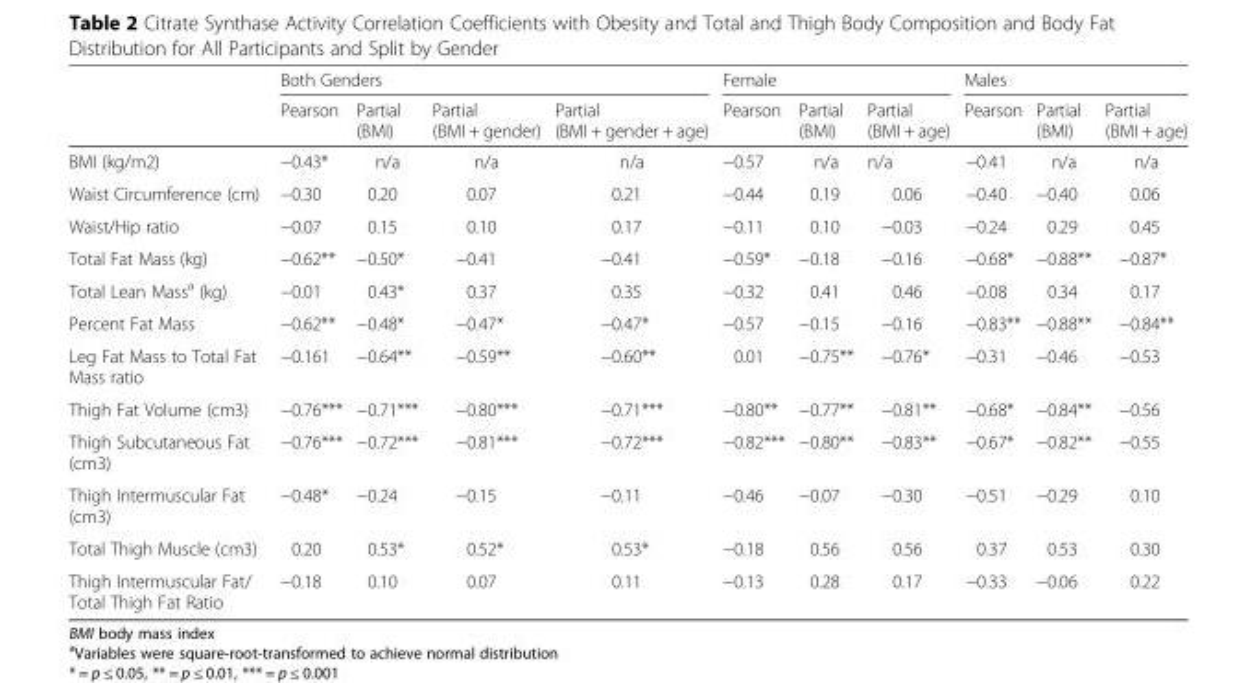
<table><thead><tr><td rowspan="2"></td><td colspan="4">Both Genders</td><td colspan="3">Female</td><td colspan="3">Males</td></tr><tr><td>Pearson</td><td>Partial (BMI)</td><td>Partial (BMI + gender)</td><td>Partial (BMI + gender + age)</td><td>Pearson</td><td>Partial (BMI)</td><td>Partial (BMI + age)</td><td>Pearson</td><td>Partial (BMI)</td><td>Partial (BMI + age)</td></tr></thead><tbody><tr><td>BMI (kg/m2)</td><td>−0.43*</td><td>n/a</td><td>n/a</td><td>n/a</td><td>−0.57</td><td>n/a</td><td>n/a</td><td>−0.41</td><td>n/a</td><td>n/a</td></tr><tr><td>Waist Circumference (cm)</td><td>−0.30</td><td>0.20</td><td>0.07</td><td>0.21</td><td>−0.44</td><td>0.19</td><td>0.06</td><td>−0.40</td><td>−0.40</td><td>0.06</td></tr><tr><td>Waist/Hip ratio</td><td>−0.07</td><td>0.15</td><td>0.10</td><td>0.17</td><td>−0.11</td><td>0.10</td><td>−0.03</td><td>−0.24</td><td>0.29</td><td>0.45</td></tr><tr><td>Total Fat Mass (kg)</td><td>−0.62**</td><td>−0.50*</td><td>−0.41</td><td>−0.41</td><td>−0.59*</td><td>−0.18</td><td>−0.16</td><td>−0.68*</td><td>−0.88**</td><td>−0.87*</td></tr><tr><td>Total Lean Mass<sup>a</sup> (kg)</td><td>−0.01</td><td>0.43*</td><td>0.37</td><td>0.35</td><td>−0.32</td><td>0.41</td><td>0.46</td><td>−0.08</td><td>0.34</td><td>0.17</td></tr><tr><td>Percent Fat Mass</td><td>−0.62**</td><td>−0.48*</td><td>−0.47*</td><td>−0.47*</td><td>−0.57</td><td>−0.15</td><td>−0.16</td><td>−0.83**</td><td>−0.88**</td><td>−0.84**</td></tr><tr><td>Leg Fat Mass to Total Fat Mass ratio</td><td>−0.161</td><td>−0.64**</td><td>−0.59**</td><td>−0.60**</td><td>0.01</td><td>−0.75**</td><td>−0.76*</td><td>−0.31</td><td>−0.46</td><td>−0.53</td></tr><tr><td>Thigh Fat Volume (cm3)</td><td>−0.76***</td><td>−0.71***</td><td>−0.80***</td><td>−0.71***</td><td>−0.80**</td><td>−0.77**</td><td>−0.81**</td><td>−0.68*</td><td>−0.84**</td><td>−0.56</td></tr><tr><td>Thigh Subcutaneous Fat (cm3)</td><td>−0.76***</td><td>−0.72***</td><td>−0.81***</td><td>−0.72***</td><td>−0.82***</td><td>−0.80**</td><td>−0.83**</td><td>−0.67*</td><td>−0.82**</td><td>−0.55</td></tr><tr><td>Thigh Intermuscular Fat (cm3)</td><td>−0.48*</td><td>−0.24</td><td>−0.15</td><td>−0.11</td><td>−0.46</td><td>−0.07</td><td>−0.30</td><td>−0.51</td><td>−0.29</td><td>0.10</td></tr><tr><td>Total Thigh Muscle (cm3)</td><td>0.20</td><td>0.53*</td><td>0.52*</td><td>0.53*</td><td>−0.18</td><td>0.56</td><td>0.56</td><td>0.37</td><td>0.53</td><td>0.30</td></tr><tr><td>Thigh Intermuscular Fat/ Total Thigh Fat Ratio</td><td>−0.18</td><td>0.10</td><td>0.07</td><td>0.11</td><td>−0.13</td><td>0.28</td><td>0.17</td><td>−0.33</td><td>−0.06</td><td>0.22</td></tr></tbody></table>